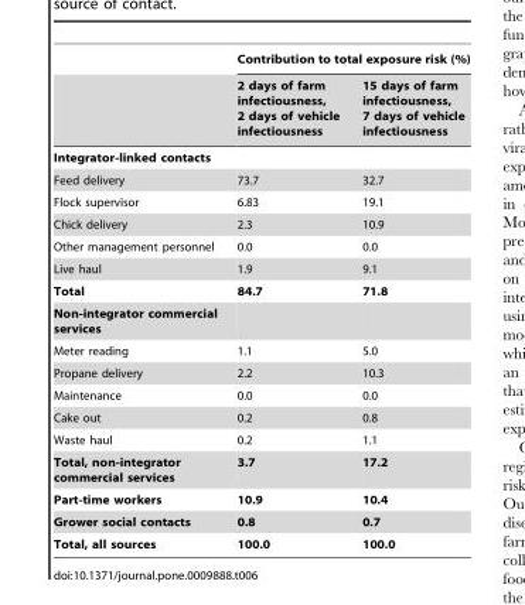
<table><thead><tr><td rowspan="2"></td><td colspan="2">Contribution to total exposure risk (%)</td></tr><tr><td>2 days of farm infectiousness, 2 days of vehicle infectiousness</td><td>15 days of farm infectiousness, 7 days of vehicle infectiousness</td></tr></thead><tbody><tr><td colspan="3">Integrator-linked contacts</td></tr><tr><td>Feed delivery</td><td>73.7</td><td>32.7</td></tr><tr><td>Flock supervisor</td><td>6.83</td><td>19.1</td></tr><tr><td>Chick delivery</td><td>2.3</td><td>10.9</td></tr><tr><td>Other management personnel</td><td>0.0</td><td>0.0</td></tr><tr><td>Live haul</td><td>1.9</td><td>9.1</td></tr><tr><td>Total</td><td>84.7</td><td>71.8</td></tr><tr><td colspan="3">Non-integrator commercial services</td></tr><tr><td>Meter reading</td><td>1.1</td><td>5.0</td></tr><tr><td>Propane delivery</td><td>2.2</td><td>10.3</td></tr><tr><td>Maintenance</td><td>0.0</td><td>0.0</td></tr><tr><td>Cake out</td><td>0.2</td><td>0.8</td></tr><tr><td>Waste haul</td><td>0.2</td><td>1.1</td></tr><tr><td>Total, non-integrator commercial services</td><td>3.7</td><td>17.2</td></tr><tr><td>Part-time workers</td><td>10.9</td><td>10.4</td></tr><tr><td>Grower social contacts</td><td>0.8</td><td>0.7</td></tr><tr><td>Total, all sources</td><td>100.0</td><td>100.0</td></tr></tbody></table>